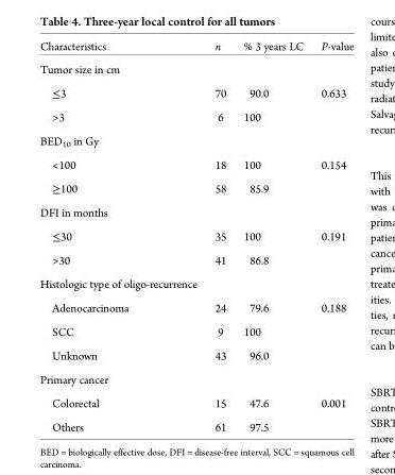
<table><thead><tr><td>Characteristics</td><td>n</td><td>% 3 years LC</td><td>P-value</td></tr></thead><tbody><tr><td colspan="4">Tumor size in cm</td></tr><tr><td>≤3</td><td>70</td><td>90.0</td><td>0.633</td></tr><tr><td>&gt;3</td><td>6</td><td>100</td><td></td></tr><tr><td colspan="4">BED<sub>10</sub> in Gy</td></tr><tr><td>&lt;100</td><td>18</td><td>100</td><td>0.154</td></tr><tr><td>≥100</td><td>58</td><td>85.9</td><td></td></tr><tr><td colspan="4">DFI in months</td></tr><tr><td>≤30</td><td>35</td><td>100</td><td>0.191</td></tr><tr><td>&gt;30</td><td>41</td><td>86.8</td><td></td></tr><tr><td colspan="4">Histologic type of oligo-recurrence</td></tr><tr><td>Adenocarcinoma</td><td>24</td><td>79.6</td><td>0.188</td></tr><tr><td>SCC</td><td>9</td><td>100</td><td></td></tr><tr><td>Unknown</td><td>43</td><td>96.0</td><td></td></tr><tr><td colspan="4">Primary cancer</td></tr><tr><td>Colorectal</td><td>15</td><td>47.6</td><td>0.001</td></tr><tr><td>Others</td><td>61</td><td>97.5</td><td></td></tr></tbody></table>